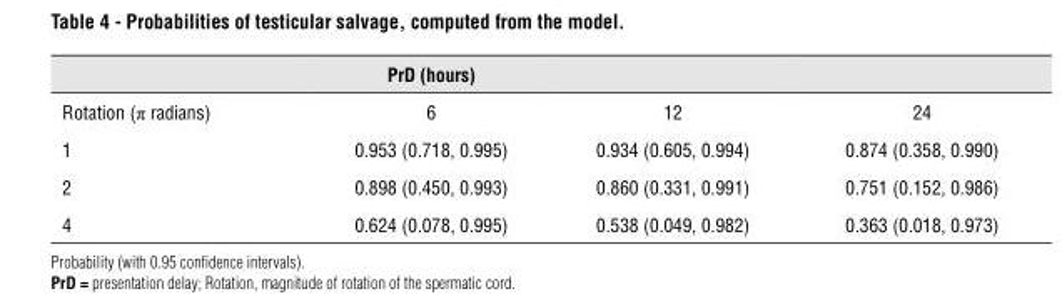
<table><thead><tr><td></td><td>prD (hours)</td><td></td><td></td></tr></thead><tbody><tr><td>Rotation (π radians)</td><td>6</td><td>12</td><td>24</td></tr><tr><td>1</td><td>0.953 (0.718, 0.995)</td><td>0.934 (0.605, 0.994)</td><td>0.874 (0.358, 0.990)</td></tr><tr><td>2</td><td>0.898 (0.450, 0.993)</td><td>0.860 (0.331, 0.991)</td><td>0.751 (0.152, 0.986)</td></tr><tr><td>4</td><td>0.624 (0.078, 0.995)</td><td>0.538 (0.049, 0.982)</td><td>0.363 (0.018, 0.973)</td></tr></tbody></table>